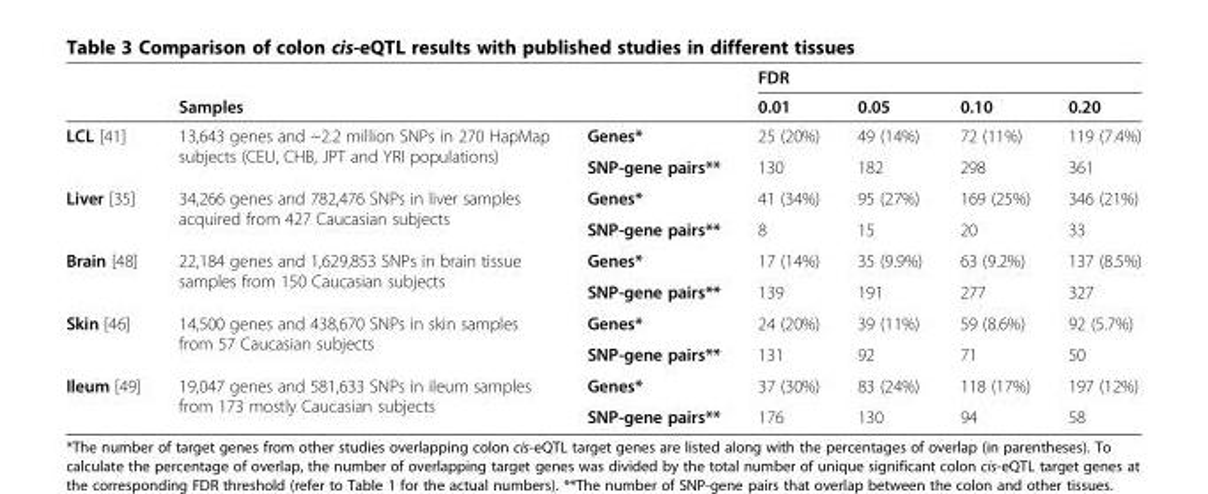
<table><thead><tr><td rowspan="2"></td><td rowspan="2">Samples</td><td rowspan="2"></td><td colspan="4">FDR</td></tr><tr><td>0.01</td><td>0.05</td><td>0.10</td><td>0.20</td></tr></thead><tbody><tr><td rowspan="2">LCL [41]</td><td rowspan="2">13,643 genes and ~2.2 million SNPs in 270 HapMap subjects (CEU, CHB, JPT and YRI populations)</td><td>Genes*</td><td>25 (20%)</td><td>49 (14%)</td><td>72 (11%)</td><td>119 (7.4%)</td></tr><tr><td>SNP-gene pairs**</td><td>130</td><td>182</td><td>298</td><td>361</td></tr><tr><td rowspan="2">Liver [35]</td><td rowspan="2">34,266 genes and 782,476 SNPs in liver samples acquired from 427 Caucasian subjects</td><td>Genes*</td><td>41 (34%)</td><td>95 (27%)</td><td>169 (25%)</td><td>346 (21%)</td></tr><tr><td>SNP-gene pairs**</td><td>8</td><td>15</td><td>20</td><td>33</td></tr><tr><td rowspan="2">Brain [48]</td><td rowspan="2">22,184 genes and 1,629,853 SNPs in brain tissue samples from 150 Caucasian subjects</td><td>Genes*</td><td>17 (14%)</td><td>35 (9.9%)</td><td>63 (9.2%)</td><td>137 (8.5%)</td></tr><tr><td>SNP-gene pairs**</td><td>139</td><td>191</td><td>277</td><td>327</td></tr><tr><td rowspan="2">Skin [46]</td><td rowspan="2">14,500 genes and 438,670 SNPs in skin samples from 57 Caucasian subjects</td><td>Genes*</td><td>24 (20%)</td><td>39 (11%)</td><td>59 (8.6%)</td><td>92 (5.7%)</td></tr><tr><td>SNP-gene pairs**</td><td>131</td><td>92</td><td>71</td><td>50</td></tr><tr><td rowspan="2">Ileum [49]</td><td rowspan="2">19,047 genes and 581,633 SNPs in ileum samples from 173 mostly Caucasian subjects</td><td>Genes*</td><td>37 (30%)</td><td>83 (24%)</td><td>118 (17%)</td><td>197 (12%)</td></tr><tr><td>SNP-gene pairs**</td><td>176</td><td>130</td><td>94</td><td>58</td></tr></tbody></table>